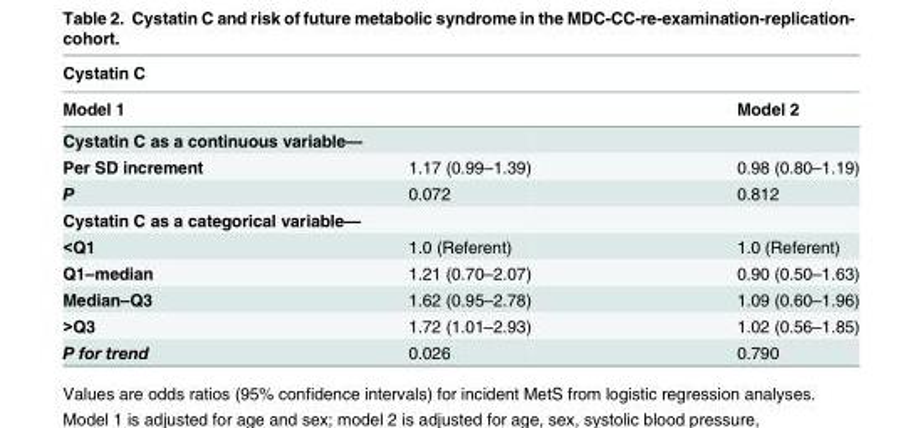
<table><thead><tr><td colspan="3">Cystatin C</td></tr><tr><td rowspan="2" colspan="2">Model 1 Cystatin C as a continuous variable—</td><td rowspan="3">Model 2 0.98 (0.80–1.19)</td></tr><tr></tr><tr><td>Per SD increment</td><td>1.17 (0.99–1.39)</td></tr></thead><tbody><tr><td>P</td><td>0.072</td><td>0.812</td></tr><tr><td colspan="3">Cystatin C as a categorical variable—</td></tr><tr><td>&lt;Q1</td><td>1.0 (Referent)</td><td>1.0 (Referent)</td></tr><tr><td>Q1–median</td><td>1.21 (0.70–2.07)</td><td>0.90 (0.50–1.63)</td></tr><tr><td>Median–Q3</td><td>1.62 (0.95–2.78)</td><td>1.09 (0.60–1.96)</td></tr><tr><td>&gt;Q3</td><td>1.72 (1.01–2.93)</td><td>1.02 (0.56–1.85)</td></tr><tr><td>P for trend</td><td>0.026</td><td>0.790</td></tr></tbody></table>